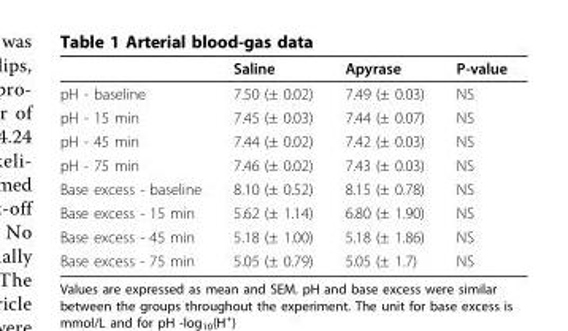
<table><thead><tr><td></td><td>Saline</td><td>Apyrase</td><td>P-value</td></tr></thead><tbody><tr><td>pH - baseline</td><td>7.50 (± 0.02)</td><td>7.49 (± 0.03)</td><td>NS</td></tr><tr><td>pH - 15 min</td><td>7.45 (± 0.03)</td><td>7.44 (± 0.07)</td><td>NS</td></tr><tr><td>pH - 45 min</td><td>7.44 (± 0.02)</td><td>7.42 (± 0.03)</td><td>NS</td></tr><tr><td>pH - 75 min</td><td>7.46 (± 0.02)</td><td>7.43 (± 0.03)</td><td>NS</td></tr><tr><td>Base excess - baseline</td><td>8.10 (± 0.52)</td><td>8.15 (± 0.78)</td><td>NS</td></tr><tr><td>Base excess - 15 min</td><td>5.62 (± 1.14)</td><td>6.80 (± 1.90)</td><td>NS</td></tr><tr><td>Base excess - 45 min</td><td>5.18 (± 1.00)</td><td>5.18 (± 1.86)</td><td>NS</td></tr><tr><td>Base excess - 75 min</td><td>5.05 (± 0.79)</td><td>5.05 (± 1.7)</td><td>NS</td></tr></tbody></table>